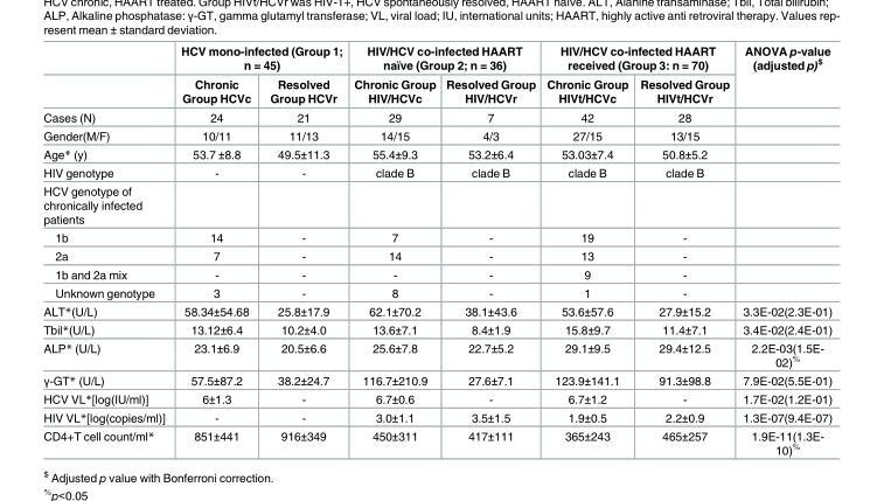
<table><thead><tr><td rowspan="2"></td><td colspan="2">HCV mono-infected (Group 1; n = 45)</td><td colspan="2">HIV/HCV co-infected HAART naïve (Group 2; n = 36)</td><td colspan="2">HIV/HCV co-infected HAART received (Group 3: n = 70)</td><td rowspan="2">ANOVA p-value (adjusted p)<sup>$</sup></td></tr><tr><td>Chronic Group HCVc</td><td>Resolved Group HCVr</td><td>Chronic Group HIV/HCVc</td><td>Resolved Group HIV/HCVr</td><td>Chronic Group HIVt/HCVc</td><td>Resolved Group HIVt/HCVr</td></tr></thead><tbody><tr><td>Cases (N)</td><td>24</td><td>21</td><td>29</td><td>7</td><td>42</td><td>28</td><td></td></tr><tr><td>Gender(M/F)</td><td>10/11</td><td>11/13</td><td>14/15</td><td>4/3</td><td>27/15</td><td>13/15</td><td></td></tr><tr><td>Age* (y)</td><td>53.7 ±8.8</td><td>49.5±11.3</td><td>55.4±9.3</td><td>53.2±6.4</td><td>53.03±7.4</td><td>50.8±5.2</td><td></td></tr><tr><td>HIV genotype</td><td>-</td><td>-</td><td>clade B</td><td>clade B</td><td>clade B</td><td>clade B</td><td></td></tr><tr><td colspan="8">HCV genotype of chronically infected patients</td></tr><tr><td>1b</td><td>14</td><td>-</td><td>7</td><td>-</td><td>19</td><td>-</td><td></td></tr><tr><td>2a</td><td>7</td><td>-</td><td>14</td><td>-</td><td>13</td><td>-</td><td></td></tr><tr><td>1b and 2a mix</td><td>-</td><td>-</td><td>-</td><td>-</td><td>9</td><td>-</td><td></td></tr><tr><td>Unknown genotype</td><td>3</td><td>-</td><td>8</td><td>-</td><td>1</td><td>-</td><td></td></tr><tr><td>ALT*(U/L)</td><td>58.34±54.68</td><td>25.8±17.9</td><td>62.1±70.2</td><td>38.1±43.6</td><td>53.6±57.6</td><td>27.9±15.2</td><td>3.3E-02(2.3E-01)</td></tr><tr><td>Tbil*(U/L)</td><td>13.12±6.4</td><td>10.2±4.0</td><td>13.6±7.1</td><td>8.4±1.9</td><td>15.8±9.7</td><td>11.4±7.1</td><td>3.4E-02(2.4E-01)</td></tr><tr><td>ALP* (U/L)</td><td>23.1±6.9</td><td>20.5±6.6</td><td>25.6±7.8</td><td>22.7±5.2</td><td>29.1±9.5</td><td>29.4±12.5</td><td>2.2E-03(1.5E- 02)<sup>%</sup></td></tr><tr><td>γ-GT* (U/L)</td><td>57.5±87.2</td><td>38.2±24.7</td><td>116.7±210.9</td><td>27.6±7.1</td><td>123.9±141.1</td><td>91.3±98.8</td><td>7.9E-02(5.5E-01)</td></tr><tr><td>HCV VL*[log(IU/ml)]</td><td>6±1.3</td><td>-</td><td>6.7±0.6</td><td>-</td><td>6.7±1.2</td><td>-</td><td>1.7E-02(1.2E-01)</td></tr><tr><td>HIV VL*[log(copies/ml)]</td><td>-</td><td>-</td><td>3.0±1.1</td><td>3.5±1.5</td><td>1.9±0.5</td><td>2.2±0.9</td><td>1.3E-07(9.4E-07)</td></tr><tr><td>CD4+T cell count/ml*</td><td>851±441</td><td>916±349</td><td>450±311</td><td>417±111</td><td>365±243</td><td>465±257</td><td>1.9E-11(1.3E- 10)<sup>%</sup></td></tr></tbody></table>